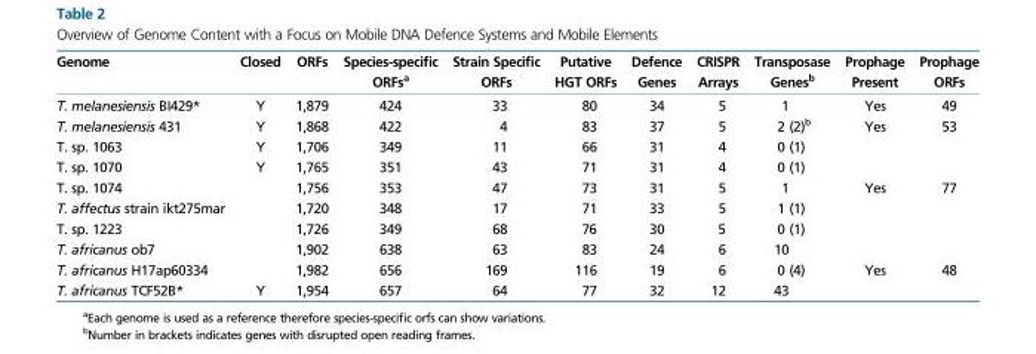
<table><thead><tr><td>Genome</td><td>Closed</td><td>ORFs</td><td>Species-specific ORFs<sup>a</sup></td><td>Strain Specific ORFs</td><td>Putative HGT ORFs</td><td>Defence Genes</td><td>CRISPR Arrays</td><td>Transposase Genes<sup>b</sup></td><td>Prophage Present</td><td>Prophage ORFs</td></tr></thead><tbody><tr><td>T. melanesiensis BI429*</td><td>Y</td><td>1,879</td><td>424</td><td>33</td><td>80</td><td>34</td><td>5</td><td>1</td><td>Yes</td><td>49</td></tr><tr><td>T. melanesiensis 431</td><td>Y</td><td>1,868</td><td>422</td><td>4</td><td>83</td><td>37</td><td>5</td><td>2 (2)<sup>b</sup></td><td>Yes</td><td>53</td></tr><tr><td>T. sp. 1063</td><td>Y</td><td>1,706</td><td>349</td><td>11</td><td>66</td><td>31</td><td>4</td><td>0 (1)</td><td></td><td></td></tr><tr><td>T. sp. 1070</td><td>Y</td><td>1,765</td><td>351</td><td>43</td><td>71</td><td>31</td><td>4</td><td>0 (1)</td><td></td><td></td></tr><tr><td>T. sp. 1074</td><td></td><td>1,756</td><td>353</td><td>47</td><td>73</td><td>31</td><td>5</td><td>1</td><td>Yes</td><td>77</td></tr><tr><td>T. affectus strain ikt275mar</td><td></td><td>1,720</td><td>348</td><td>17</td><td>71</td><td>33</td><td>5</td><td>1 (1)</td><td></td><td></td></tr><tr><td>T. sp. 1223</td><td></td><td>1,726</td><td>349</td><td>68</td><td>76</td><td>30</td><td>5</td><td>0 (1)</td><td></td><td></td></tr><tr><td>T. africanus ob7</td><td></td><td>1,902</td><td>638</td><td>63</td><td>83</td><td>24</td><td>6</td><td>10</td><td></td><td></td></tr><tr><td>T. africanus H17ap60334</td><td></td><td>1,982</td><td>656</td><td>169</td><td>116</td><td>19</td><td>6</td><td>0 (4)</td><td>Yes</td><td>48</td></tr><tr><td>T. africanus TCF52B*</td><td>Y</td><td>1,954</td><td>657</td><td>64</td><td>77</td><td>32</td><td>12</td><td>43</td><td></td><td></td></tr></tbody></table>